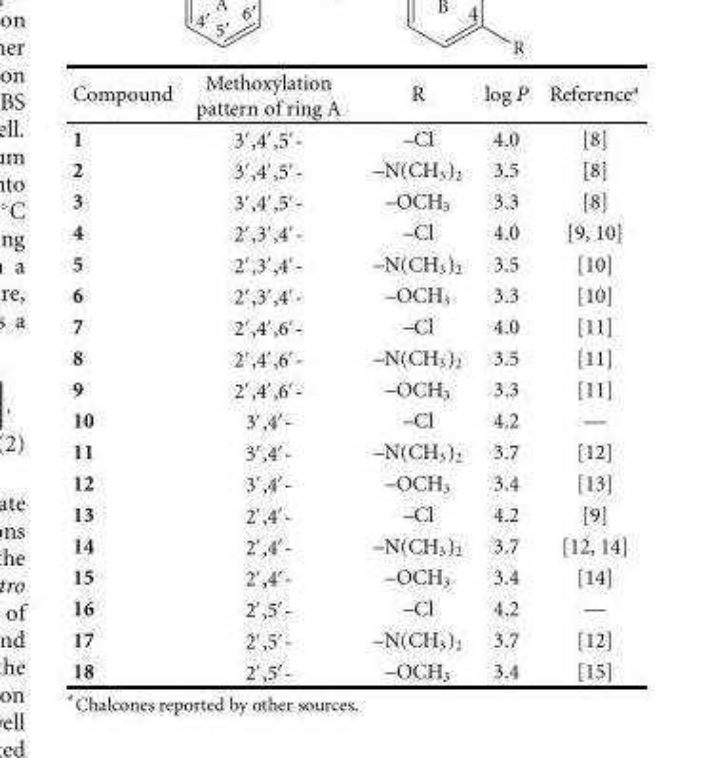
<table><tbody><tr><td>Compound</td><td>Methoxylation pattern of ring A</td><td>R</td><td>log P</td><td>Reference<sup>a</sup></td></tr><tr><td>1</td><td>3′,4′,5′-</td><td>–Cl</td><td>4.0</td><td>[8]</td></tr><tr><td>2</td><td>3′,4′,5′-</td><td>–N(CH<sub>3</sub>)<sub>2</sub></td><td>3.5</td><td>[8]</td></tr><tr><td>3</td><td>3′,4′,5′-</td><td>–OCH<sub>3</sub></td><td>3.3</td><td>[8]</td></tr><tr><td>4</td><td>2′,3′,4′-</td><td>–Cl</td><td>4.0</td><td>[9, 10]</td></tr><tr><td>5</td><td>2′,3′,4′-</td><td>–N(CH<sub>3</sub>)<sub>2</sub></td><td>3.5</td><td>[10]</td></tr><tr><td>6</td><td>2′,3′,4′-</td><td>–OCH<sub>3</sub></td><td>3.3</td><td>[10]</td></tr><tr><td>7</td><td>2′,4′,6′-</td><td>–Cl</td><td>4.0</td><td>[11]</td></tr><tr><td>8</td><td>2′,4′,6′-</td><td>–N(CH<sub>3</sub>)<sub>2</sub></td><td>3.5</td><td>[11]</td></tr><tr><td>9</td><td>2′,4′,6′-</td><td>–OCH<sub>3</sub></td><td>3.3</td><td>[11]</td></tr><tr><td>10</td><td>3′,4′-</td><td>–Cl</td><td>4.2</td><td>—</td></tr><tr><td>11</td><td>3′,4′-</td><td>–N(CH<sub>3</sub>)<sub>2</sub></td><td>3.7</td><td>[12]</td></tr><tr><td>12</td><td>3′,4′-</td><td>–OCH<sub>3</sub></td><td>3.4</td><td>[13]</td></tr><tr><td>13</td><td>2′,4′-</td><td>–Cl</td><td>4.2</td><td>[9]</td></tr><tr><td>14</td><td>2′,4′-</td><td>–N(CH<sub>3</sub>)<sub>2</sub></td><td>3.7</td><td>[12, 14]</td></tr><tr><td>15</td><td>2′,4′-</td><td>–OCH<sub>3</sub></td><td>3.4</td><td>[14]</td></tr><tr><td>16</td><td>2′,5′-</td><td>–Cl</td><td>4.2</td><td>—</td></tr><tr><td>17</td><td>2′,5′-</td><td>–N(CH<sub>3</sub>)<sub>2</sub></td><td>3.7</td><td>[12]</td></tr><tr><td>18</td><td>2′,5′-</td><td>–OCH<sub>3</sub></td><td>3.4</td><td>[15]</td></tr></tbody></table>